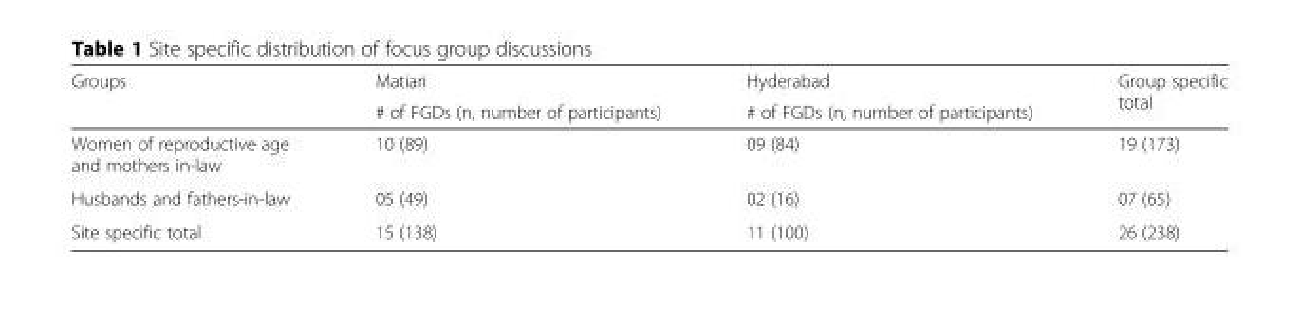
<table><thead><tr><td rowspan="2">Groups</td><td rowspan="2">Matiari # of FGDs (n, number of participants)</td><td rowspan="2">Hyderabad # of FGDs (n, number of participants)</td><td rowspan="2">Group specific total</td></tr><tr></tr></thead><tbody><tr><td>Women of reproductive age and mothers in-law</td><td>10 (89)</td><td>09 (84)</td><td>19 (173)</td></tr><tr><td>Husbands and fathers-in-law</td><td>05 (49)</td><td>02 (16)</td><td>07 (65)</td></tr><tr><td>Site specific total</td><td>15 (138)</td><td>11 (100)</td><td>26 (238)</td></tr></tbody></table>